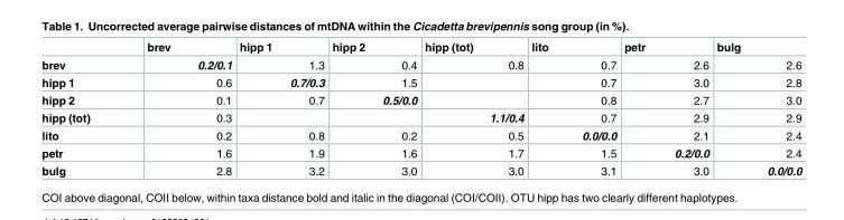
<table><thead><tr><td></td><td>brev</td><td>hipp 1</td><td>hipp 2</td><td>hipp (tot)</td><td>lito</td><td>petr</td><td>bulg</td></tr></thead><tbody><tr><td>brev</td><td>0.2/0.1</td><td>1.3</td><td>0.4</td><td>0.8</td><td>0.7</td><td>2.6</td><td>2.6</td></tr><tr><td>hipp 1</td><td>0.6</td><td>0.7/0.3</td><td>1.5</td><td></td><td>0.7</td><td>3.0</td><td>2.8</td></tr><tr><td>hipp 2</td><td>0.1</td><td>0.7</td><td>0.5/0.0</td><td></td><td>0.8</td><td>2.7</td><td>3.0</td></tr><tr><td>hipp (tot)</td><td>0.3</td><td></td><td></td><td>1.1/0.4</td><td>0.7</td><td>2.9</td><td>2.9</td></tr><tr><td>lito</td><td>0.2</td><td>0.8</td><td>0.2</td><td>0.5</td><td>0.0/0.0</td><td>2.1</td><td>2.4</td></tr><tr><td>petr</td><td>1.6</td><td>1.9</td><td>1.6</td><td>1.7</td><td>1.5</td><td>0.2/0.0</td><td>2.4</td></tr><tr><td>bulg</td><td>2.8</td><td>3.2</td><td>3.0</td><td>3.0</td><td>3.1</td><td>3.0</td><td>0.0/0.0</td></tr></tbody></table>